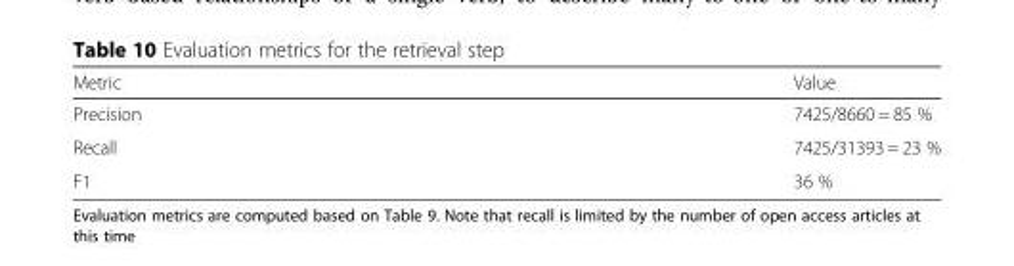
<table><thead><tr><td>Metric</td><td>Value</td></tr></thead><tbody><tr><td>Precision</td><td>7425/8660 = 85 %</td></tr><tr><td>Recall</td><td>7425/31393 = 23 %</td></tr><tr><td>F1</td><td>36 %</td></tr></tbody></table>